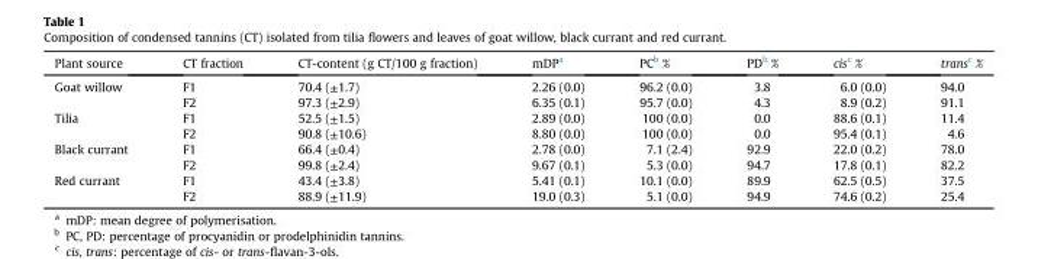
<table><thead><tr><td>Plant source</td><td>CT fraction</td><td>CT-content (g CT/100 g fraction)</td><td>mDP<sup>a</sup></td><td>PC<sup>b</sup> %</td><td>PD<sup>b</sup> %</td><td>cis<sup>c</sup> %</td><td>trans<sup>c</sup> %</td></tr></thead><tbody><tr><td rowspan="2">Goat willow</td><td>F1</td><td>70.4 (±1.7)</td><td>2.26 (0.0)</td><td>96.2 (0.0)</td><td>3.8</td><td>6.0 (0.0)</td><td>94.0</td></tr><tr><td>F2</td><td>97.3 (±2.9)</td><td>6.35 (0.1)</td><td>95.7 (0.0)</td><td>4.3</td><td>8.9 (0.2)</td><td>91.1</td></tr><tr><td rowspan="2">Tilia</td><td>F1</td><td>52.5 (±1.5)</td><td>2.89 (0.0)</td><td>100 (0.0)</td><td>0.0</td><td>88.6 (0.1)</td><td>11.4</td></tr><tr><td>F2</td><td>90.8 (±10.6)</td><td>8.80 (0.0)</td><td>100 (0.0)</td><td>0.0</td><td>95.4 (0.1)</td><td>4.6</td></tr><tr><td rowspan="2">Black currant</td><td>F1</td><td>66.4 (±0.4)</td><td>2.78 (0.0)</td><td>7.1 (2.4)</td><td>92.9</td><td>22.0 (0.2)</td><td>78.0</td></tr><tr><td>F2</td><td>99.8 (±2.4)</td><td>9.67 (0.1)</td><td>5.3 (0.0)</td><td>94.7</td><td>17.8 (0.1)</td><td>82.2</td></tr><tr><td rowspan="2">Red currant</td><td>F1</td><td>43.4 (±3.8)</td><td>5.41 (0.1)</td><td>10.1 (0.0)</td><td>89.9</td><td>62.5 (0.5)</td><td>37.5</td></tr><tr><td>F2</td><td>88.9 (±11.9)</td><td>19.0 (0.3)</td><td>5.1 (0.0)</td><td>94.9</td><td>74.6 (0.2)</td><td>25.4</td></tr></tbody></table>